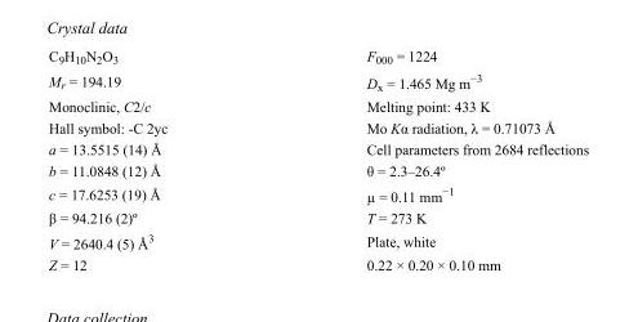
<table><tbody><tr><td>C<sub>9</sub>H<sub>10</sub>N<sub>2</sub>O<sub>3</sub></td><td>F000 = 1224</td></tr><tr><td>M<sub>r</sub> = 194.19</td><td>D<sub>x</sub> = 1.465 Mg m<sup>−3</sup></td></tr><tr><td>Monoclinic, C2/c</td><td>Melting point: 433 K</td></tr><tr><td>Hall symbol: -C 2yc</td><td>Mo Kα radiation, λ = 0.71073 Å</td></tr><tr><td>a = 13.5515 (14) Å</td><td>Cell parameters from 2684 reflections</td></tr><tr><td>b = 11.0848 (12) Å</td><td>θ = 2.3–26.4º</td></tr><tr><td>c = 17.6253 (19) Å</td><td>µ = 0.11 mm<sup>−1</sup></td></tr><tr><td>β = 94.216 (2)º</td><td>T = 273 K</td></tr><tr><td>V = 2640.4 (5) Å<sup>3</sup></td><td>Plate, white</td></tr><tr><td>Z = 12</td><td>0.22 × 0.20 × 0.10 mm</td></tr></tbody></table>